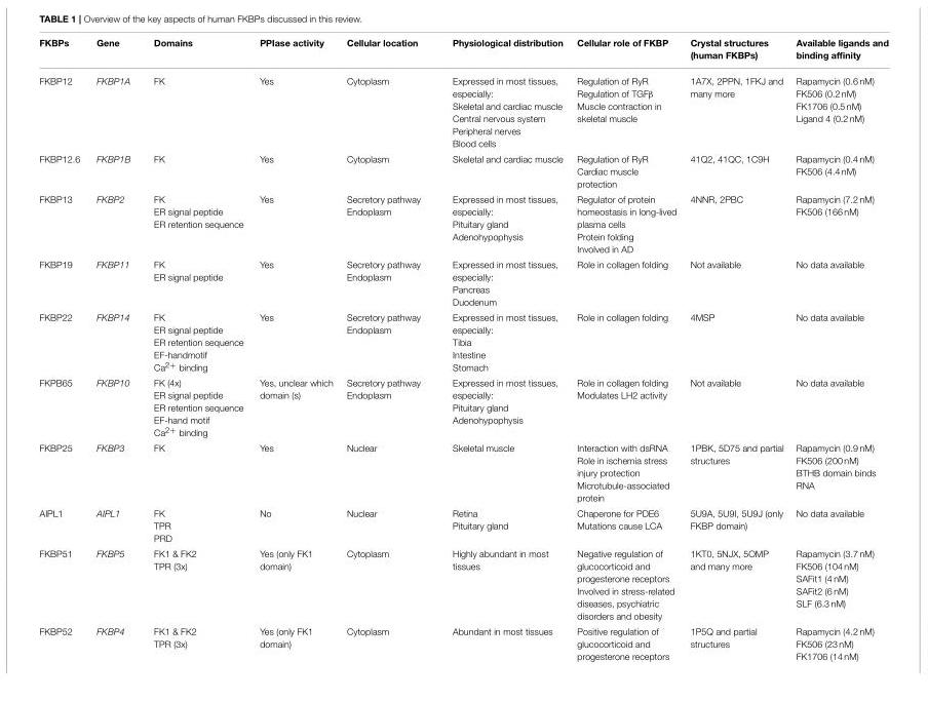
<table><thead><tr><td>FKBPs</td><td>Gene</td><td>Domains</td><td>PPIase activity</td><td>Cellular location</td><td>Physiological distribution</td><td>Cellular role of FKBP</td><td>Crystal structures (human FKBPs)</td><td>Available ligands and binding affinity</td></tr></thead><tbody><tr><td>FKBP12</td><td>FKBP1A</td><td>FK</td><td>Yes</td><td>Cytoplasm</td><td>Expressed in most tissues, especially: Skeletal and cardiac muscle Central nervous system Peripheral nerves Blood cells</td><td>Regulation of RyR Regulation of TGFβ Muscle contraction in skeletal muscle</td><td>1A7X, 2PPN, 1FKJ and many more</td><td>Rapamycin (0.6 nM) FK506 (0.2 nM) FK1706 (0.5 nM) Ligand 4 (0.2 nM)</td></tr><tr><td>FKBP12.6</td><td>FKBP1B</td><td>FK</td><td>Yes</td><td>Cytoplasm</td><td>Skeletal and cardiac muscle</td><td>Regulation of RyR Cardiac muscle protection</td><td>41Q2, 41QC, 1C9H</td><td>Rapamycin (0.4 nM) FK506 (4.4 nM)</td></tr><tr><td>FKBP13</td><td>FKBP2</td><td>FK ER signal peptide ER retention sequence</td><td>Yes</td><td>Secretory pathway Endoplasm</td><td>Expressed in most tissues, especially: Pituitary gland Adenohypophysis</td><td>Regulator of protein homeostasis in long-lived plasma cells Protein folding Involved in AD</td><td>4NNR, 2PBC</td><td>Rapamycin (7.2 nM) FK506 (166 nM)</td></tr><tr><td>FKBP19</td><td>FKBP11</td><td>FK ER signal peptide</td><td>Yes</td><td>Secretory pathway Endoplasm</td><td>Expressed in most tissues, especially: Pancreas Duodenum</td><td>Role in collagen folding</td><td>Not available</td><td>No data available</td></tr><tr><td>FKBP22</td><td>FKBP14</td><td>FK ER signal peptide ER retention sequence EF-handmotif Ca<sup>2+</sup> binding</td><td>Yes</td><td>Secretory pathway Endoplasm</td><td>Expressed in most tissues, especially: Tibia Intestine Stomach</td><td>Role in collagen folding</td><td>4MSP</td><td>No data available</td></tr><tr><td>FKPB65</td><td>FKBP10</td><td>FK (4x) ER signal peptide ER retention sequence EF-hand motif Ca<sup>2+</sup> binding</td><td>Yes, unclear which domain (s)</td><td>Secretory pathway Endoplasm</td><td>Expressed in most tissues, especially: Pituitary gland Adenohypophysis</td><td>Role in collagen folding Modulates LH2 activity</td><td>Not available</td><td>No data available</td></tr><tr><td>FKBP25</td><td>FKBP3</td><td>FK</td><td>Yes</td><td>Nuclear</td><td>Skeletal muscle</td><td>Interaction with dsRNA Role in ischemia stress injury protection Microtubule-associated protein</td><td>1PBK, 5D75 and partial structures</td><td>Rapamycin (0.9 nM) FK506 (200 nM) BTHB domain binds RNA</td></tr><tr><td>AIPL1</td><td>AIPL1</td><td>FK TPR PRD</td><td>No</td><td>Nuclear</td><td>Retina Pituitary gland</td><td>Chaperone for PDE6 Mutations cause LCA</td><td>5U9A, 5U9I, 5U9J (only FKBP domain)</td><td>No data available</td></tr><tr><td>FKBP51</td><td>FKBP5</td><td>FK1 &amp; FK2 TPR (3x)</td><td>Yes (only FK1 domain)</td><td>Cytoplasm</td><td>Highly abundant in most tissues</td><td>Negative regulation of glucocorticoid and progesterone receptors Involved in stress-related diseases, psychiatric disorders and obesity</td><td>1KT0, 5NJX, 5OMP and many more</td><td>Rapamycin (3.7 nM) FK506 (104 nM) SAFit1 (4 nM) SAFit2 (6 nM) SLF (6.3 nM)</td></tr><tr><td>FKBP52</td><td>FKBP4</td><td>FK1 &amp; FK2 TPR (3x)</td><td>Yes (only FK1 domain)</td><td>Cytoplasm</td><td>Abundant in most tissues</td><td>Positive regulation of glucocorticoid and progesterone receptors</td><td>1P5Q and partial structures</td><td>Rapamycin (4.2 nM) FK506 (23 nM) FK1706 (14 nM)</td></tr></tbody></table>